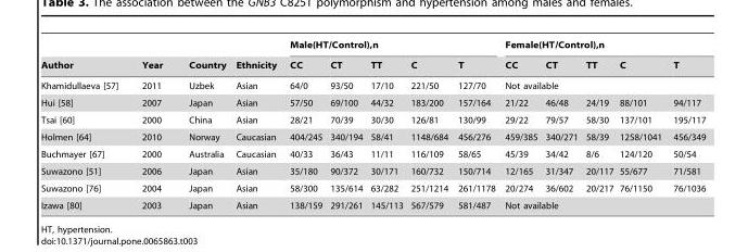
<table><thead><tr><td rowspan="2">Author</td><td rowspan="2">Year</td><td rowspan="2">Country</td><td rowspan="2">Ethnicity</td><td colspan="5">Male(HT/Control),n</td><td colspan="5">Female(HT/Control),n</td></tr><tr><td>CC</td><td>CT</td><td>TT</td><td>C</td><td>T</td><td>CC</td><td>CT</td><td>TT</td><td>C</td><td>T</td></tr></thead><tbody><tr><td>Khamidullaeva [57]</td><td>2011</td><td>Uzbek</td><td>Asian</td><td>64/0</td><td>93/50</td><td>17/10</td><td>221/50</td><td>127/70</td><td colspan="5">Not available</td></tr><tr><td>Hui [58]</td><td>2007</td><td>Japan</td><td>Asian</td><td>57/50</td><td>69/100</td><td>44/32</td><td>183/200</td><td>157/164</td><td>21/22</td><td>46/48</td><td>24/19</td><td>88/101</td><td>94/117</td></tr><tr><td>Tsai [60]</td><td>2000</td><td>China</td><td>Asian</td><td>28/21</td><td>70/39</td><td>30/30</td><td>126/81</td><td>130/99</td><td>29/22</td><td>79/57</td><td>58/30</td><td>137/101</td><td>195/117</td></tr><tr><td>Holmen [64]</td><td>2010</td><td>Norway</td><td>Caucasian</td><td>404/245</td><td>340/194</td><td>58/41</td><td>1148/684</td><td>456/276</td><td>459/385</td><td>340/271</td><td>58/39</td><td>1258/1041</td><td>456/349</td></tr><tr><td>Buchmayer [67]</td><td>2000</td><td>Australia</td><td>Caucasian</td><td>40/33</td><td>36/43</td><td>11/11</td><td>116/109</td><td>58/65</td><td>45/39</td><td>34/42</td><td>8/6</td><td>124/120</td><td>50/54</td></tr><tr><td>Suwazono [51]</td><td>2006</td><td>Japan</td><td>Asian</td><td>35/180</td><td>90/372</td><td>30/171</td><td>160/732</td><td>150/714</td><td>12/165</td><td>31/347</td><td>20/117</td><td>55/677</td><td>71/581</td></tr><tr><td>Suwazono [76]</td><td>2004</td><td>Japan</td><td>Asian</td><td>58/300</td><td>135/614</td><td>63/282</td><td>251/1214</td><td>261/1178</td><td>20/274</td><td>36/602</td><td>20/217</td><td>76/1150</td><td>76/1036</td></tr><tr><td>Izawa [80]</td><td>2003</td><td>Japan</td><td>Asian</td><td>138/159</td><td>291/261</td><td>145/113</td><td>567/579</td><td>581/487</td><td colspan="5">Not available</td></tr></tbody></table>